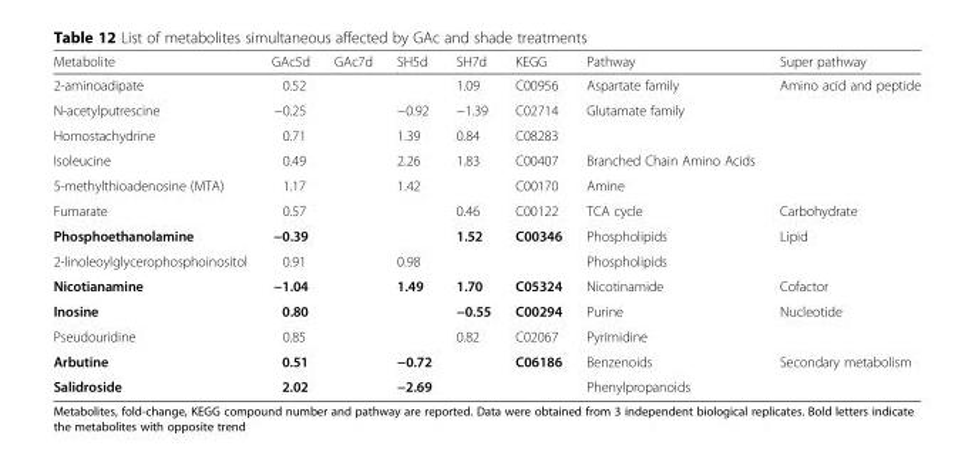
<table><thead><tr><td>Metabolite</td><td>GAc5d</td><td>GAc7d</td><td>SH5d</td><td>SH7d</td><td>KEGG</td><td>Pathway</td><td>Super pathway</td></tr></thead><tbody><tr><td>2-aminoadipate</td><td>0.52</td><td></td><td></td><td>1.09</td><td>C00956</td><td>Aspartate family</td><td>Amino acid and peptide</td></tr><tr><td>N-acetylputrescine</td><td>−0.25</td><td></td><td>−0.92</td><td>−1.39</td><td>C02714</td><td>Glutamate family</td><td></td></tr><tr><td>Homostachydrine</td><td>0.71</td><td></td><td>1.39</td><td>0.84</td><td>C08283</td><td></td><td></td></tr><tr><td>Isoleucine</td><td>0.49</td><td></td><td>2.26</td><td>1.83</td><td>C00407</td><td>Branched Chain Amino Acids</td><td></td></tr><tr><td>5-methylthioadenosine (MTA)</td><td>1.17</td><td></td><td>1.42</td><td></td><td>C00170</td><td>Amine</td><td></td></tr><tr><td>Fumarate</td><td>0.57</td><td></td><td></td><td>0.46</td><td>C00122</td><td>TCA cycle</td><td>Carbohydrate</td></tr><tr><td>Phosphoethanolamine</td><td>−0.39</td><td></td><td></td><td>1.52</td><td>C00346</td><td>Phospholipids</td><td>Lipid</td></tr><tr><td>2-linoleoylglycerophosphoinositol</td><td>0.91</td><td></td><td>0.98</td><td></td><td></td><td>Phospholipids</td><td></td></tr><tr><td>Nicotianamine</td><td>−1.04</td><td></td><td>1.49</td><td>1.70</td><td>C05324</td><td>Nicotinamide</td><td>Cofactor</td></tr><tr><td>Inosine</td><td>0.80</td><td></td><td></td><td>−0.55</td><td>C00294</td><td>Purine</td><td>Nucleotide</td></tr><tr><td>Pseudouridine</td><td>0.85</td><td></td><td></td><td>0.82</td><td>C02067</td><td>Pyrimidine</td><td></td></tr><tr><td>Arbutine</td><td>0.51</td><td></td><td>−0.72</td><td></td><td>C06186</td><td>Benzenoids</td><td>Secondary metabolism</td></tr><tr><td>Salidroside</td><td>2.02</td><td></td><td>−2.69</td><td></td><td></td><td>Phenylpropanoids</td><td></td></tr></tbody></table>